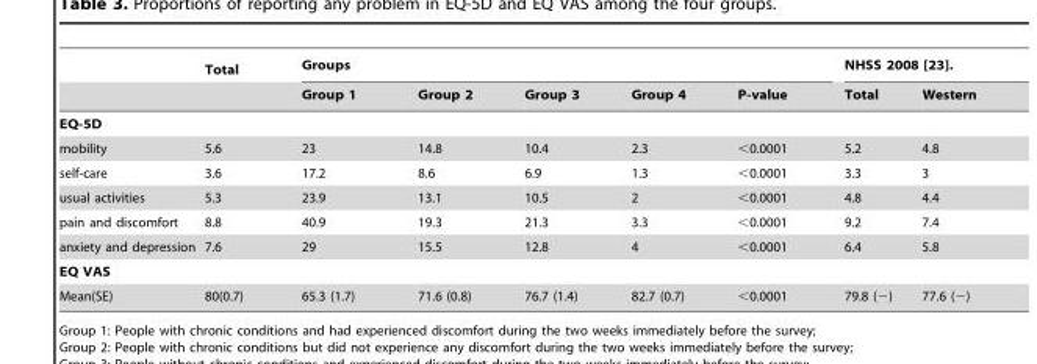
<table><thead><tr><td rowspan="2"></td><td rowspan="2">Total</td><td colspan="5">Groups</td><td colspan="2">NHSS 2008 [23].</td></tr><tr><td>Group 1</td><td>Group 2</td><td>Group 3</td><td>Group 4</td><td>P-value</td><td>Total</td><td>Western</td></tr></thead><tbody><tr><td colspan="9">EQ-5D</td></tr><tr><td>mobility</td><td>5.6</td><td>23</td><td>14.8</td><td>10.4</td><td>2.3</td><td>&lt;0.0001</td><td>5.2</td><td>4.8</td></tr><tr><td>self-care</td><td>3.6</td><td>17.2</td><td>8.6</td><td>6.9</td><td>1.3</td><td>&lt;0.0001</td><td>3.3</td><td>3</td></tr><tr><td>usual activities</td><td>5.3</td><td>23.9</td><td>13.1</td><td>10.5</td><td>2</td><td>&lt;0.0001</td><td>4.8</td><td>4.4</td></tr><tr><td>pain and discomfort</td><td>8.8</td><td>40.9</td><td>19.3</td><td>21.3</td><td>3.3</td><td>&lt;0.0001</td><td>9.2</td><td>7.4</td></tr><tr><td>anxiety and depression</td><td>7.6</td><td>29</td><td>15.5</td><td>12.8</td><td>4</td><td>&lt;0.0001</td><td>6.4</td><td>5.8</td></tr><tr><td colspan="9">EQ VAS</td></tr><tr><td>Mean(SE)</td><td>80(0.7)</td><td>65.3 (1.7)</td><td>71.6 (0.8)</td><td>76.7 (1.4)</td><td>82.7 (0.7)</td><td>&lt;0.0001</td><td>79.8 (−)</td><td>77.6 (−)</td></tr></tbody></table>